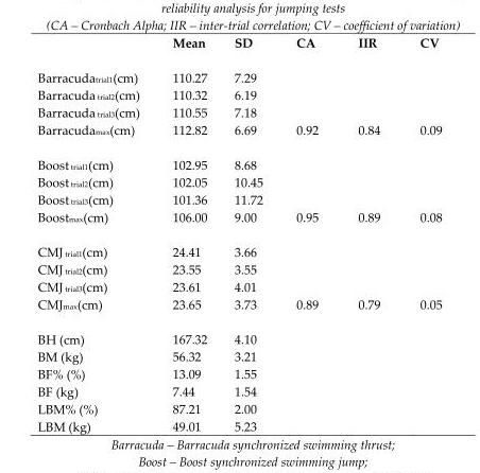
<table><thead><tr><td></td><td>Mean</td><td>SD</td><td>CA</td><td>IIR</td><td>CV</td></tr></thead><tbody><tr><td>Barracuda<sub>trial1</sub>(cm)</td><td>110.27</td><td>7.29</td><td></td><td></td><td></td></tr><tr><td>Barracuda <sub>trial2</sub>(cm)</td><td>110.32</td><td>6.19</td><td></td><td></td><td></td></tr><tr><td>Barracuda <sub>trial3</sub>(cm)</td><td>110.55</td><td>7.18</td><td></td><td></td><td></td></tr><tr><td>Barracuda<sub>max</sub>(cm)</td><td>112.82</td><td>6.69</td><td>0.92</td><td>0.84</td><td>0.09</td></tr><tr><td>Boost <sub>trial1</sub>(cm)</td><td>102.95</td><td>8.68</td><td></td><td></td><td></td></tr><tr><td>Boost <sub>trial2</sub>(cm)</td><td>102.05</td><td>10.45</td><td></td><td></td><td></td></tr><tr><td>Boost <sub>trial3</sub>(cm)</td><td>101.36</td><td>11.72</td><td></td><td></td><td></td></tr><tr><td>Boost<sub>max</sub>(cm)</td><td>106.00</td><td>9.00</td><td>0.95</td><td>0.89</td><td>0.08</td></tr><tr><td>CMJ <sub>trial1</sub>(cm)</td><td>24.41</td><td>3.66</td><td></td><td></td><td></td></tr><tr><td>CMJ <sub>trial2</sub>(cm)</td><td>23.55</td><td>3.55</td><td></td><td></td><td></td></tr><tr><td>CMJ <sub>trial3</sub>(cm)</td><td>23.61</td><td>4.01</td><td></td><td></td><td></td></tr><tr><td>CMJ<sub>max</sub>(cm)</td><td>23.65</td><td>3.73</td><td>0.89</td><td>0.79</td><td>0.05</td></tr><tr><td>BH (cm)</td><td>167.32</td><td>4.10</td><td></td><td></td><td></td></tr><tr><td>BM (kg)</td><td>56.32</td><td>3.21</td><td></td><td></td><td></td></tr><tr><td>BF% (%)</td><td>13.09</td><td>1.55</td><td></td><td></td><td></td></tr><tr><td>BF (kg)</td><td>7.44</td><td>1.54</td><td></td><td></td><td></td></tr><tr><td>LBM% (%)</td><td>87.21</td><td>2.00</td><td></td><td></td><td></td></tr><tr><td>LBM (kg)</td><td>49.01</td><td>5.23</td><td></td><td></td><td></td></tr></tbody></table>